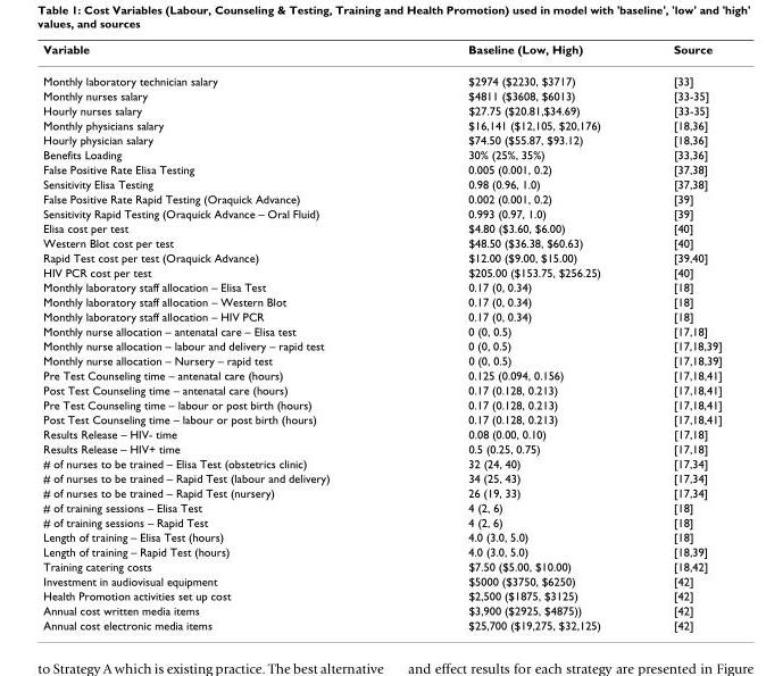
<table><thead><tr><td>Variable</td><td>Baseline (Low, High)</td><td>Source</td></tr></thead><tbody><tr><td>Monthly laboratory technician salary</td><td>$2974 ($2230, $3717)</td><td>[33]</td></tr><tr><td>Monthly nurses salary</td><td>$4811 ($3608, $6013)</td><td>[33-35]</td></tr><tr><td>Hourly nurses salary</td><td>$27.75 ($20.81,$34.69)</td><td>[33-35]</td></tr><tr><td>Monthly physicians salary</td><td>$16,141 ($12,105, $20,176)</td><td>[18,36]</td></tr><tr><td>Hourly physician salary</td><td>$74.50 ($55.87, $93.12)</td><td>[18,36]</td></tr><tr><td>Benefits Loading</td><td>30% (25%, 35%)</td><td>[33,36]</td></tr><tr><td>False Positive Rate Elisa Testing</td><td>0.005 (0.001, 0.2)</td><td>[37,38]</td></tr><tr><td>Sensitivity Elisa Testing</td><td>0.98 (0.96, 1.0)</td><td>[37,38]</td></tr><tr><td>False Positive Rate Rapid Testing (Oraquick Advance)</td><td>0.002 (0.001, 0.2)</td><td>[39]</td></tr><tr><td>Sensitivity Rapid Testing (Oraquick Advance – Oral Fluid)</td><td>0.993 (0.97, 1.0)</td><td>[39]</td></tr><tr><td>Elisa cost per test</td><td>$4.80 ($3.60, $6.00)</td><td>[40]</td></tr><tr><td>Western Blot cost per test</td><td>$48.50 ($36.38, $60.63)</td><td>[40]</td></tr><tr><td>Rapid Test cost per test (Oraquick Advance)</td><td>$12.00 ($9.00, $15.00)</td><td>[39,40]</td></tr><tr><td>HIV PCR cost per test</td><td>$205.00 ($153.75, $256.25)</td><td>[40]</td></tr><tr><td>Monthly laboratory staff allocation – Elisa Test</td><td>0.17 (0, 0.34)</td><td>[18]</td></tr><tr><td>Monthly laboratory staff allocation – Western Blot</td><td>0.17 (0, 0.34)</td><td>[18]</td></tr><tr><td>Monthly laboratory staff allocation – HIV PCR</td><td>0.17 (0, 0.34)</td><td>[18]</td></tr><tr><td>Monthly nurse allocation – antenatal care – Elisa test</td><td>0 (0, 0.5)</td><td>[17,18]</td></tr><tr><td>Monthly nurse allocation – labour and delivery – rapid test</td><td>0 (0, 0.5)</td><td>[17,18,39]</td></tr><tr><td>Monthly nurse allocation – Nursery – rapid test</td><td>0 (0, 0.5)</td><td>[17,18,39]</td></tr><tr><td>Pre Test Counseling time – antenatal care (hours)</td><td>0.125 (0.094, 0.156)</td><td>[17,18,41]</td></tr><tr><td>Post Test Counseling time – antenatal care (hours)</td><td>0.17 (0.128, 0.213)</td><td>[17,18,41]</td></tr><tr><td>Pre Test Counseling time – labour or post birth (hours)</td><td>0.17 (0.128, 0.213)</td><td>[17,18,41]</td></tr><tr><td>Post Test Counseling time – labour or post birth (hours)</td><td>0.17 (0.128, 0.213)</td><td>[17,18,41]</td></tr><tr><td>Results Release – HIV- time</td><td>0.08 (0.00, 0.10)</td><td>[17,18]</td></tr><tr><td>Results Release – HIV+ time</td><td>0.5 (0.25, 0.75)</td><td>[17,18]</td></tr><tr><td># of nurses to be trained – Elisa Test (obstetrics clinic)</td><td>32 (24, 40)</td><td>[17,34]</td></tr><tr><td># of nurses to be trained – Rapid Test (labour and delivery)</td><td>34 (25, 43)</td><td>[17,34]</td></tr><tr><td># of nurses to be trained – Rapid Test (nursery)</td><td>26 (19, 33)</td><td>[17,34]</td></tr><tr><td># of training sessions – Elisa Test</td><td>4 (2, 6)</td><td>[18]</td></tr><tr><td># of training sessions – Rapid Test</td><td>4 (2, 6)</td><td>[18]</td></tr><tr><td>Length of training – Elisa Test (hours)</td><td>4.0 (3.0, 5.0)</td><td>[18]</td></tr><tr><td>Length of training – Rapid Test (hours)</td><td>4.0 (3.0, 5.0)</td><td>[18,39]</td></tr><tr><td>Training catering costs</td><td>$7.50 ($5.00, $10.00)</td><td>[18,42]</td></tr><tr><td>Investment in audiovisual equipment</td><td>$5000 ($3750, $6250)</td><td>[42]</td></tr><tr><td>Health Promotion activities set up cost</td><td>$2,500 ($1875, $3125)</td><td>[42]</td></tr><tr><td>Annual cost written media items</td><td>$3,900 ($2925, $4875))</td><td>[42]</td></tr><tr><td>Annual cost electronic media items</td><td>$25,700 ($19,275, $32,125)</td><td>[42]</td></tr></tbody></table>